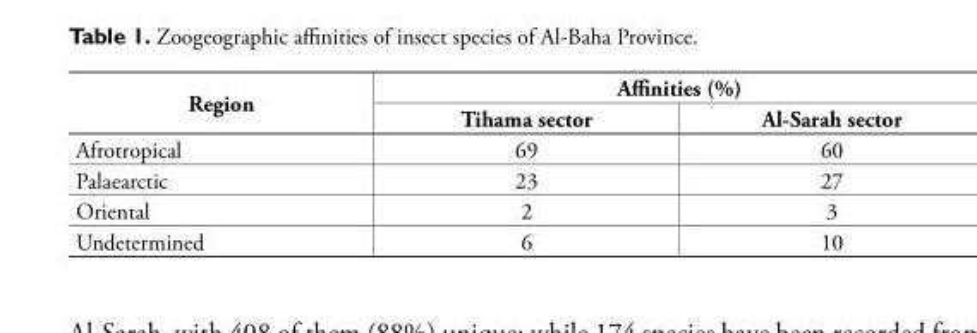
<table><tbody><tr><td rowspan="2">Region</td><td colspan="2">Affinities (%)</td></tr><tr><td>Tihama sector</td><td>Al-Sarah sector</td></tr><tr><td>Afrotropical</td><td>69</td><td>60</td></tr><tr><td>Palaearctic</td><td>23</td><td>27</td></tr><tr><td>Oriental</td><td>2</td><td>3</td></tr><tr><td>Undetermined</td><td>6</td><td>10</td></tr></tbody></table>